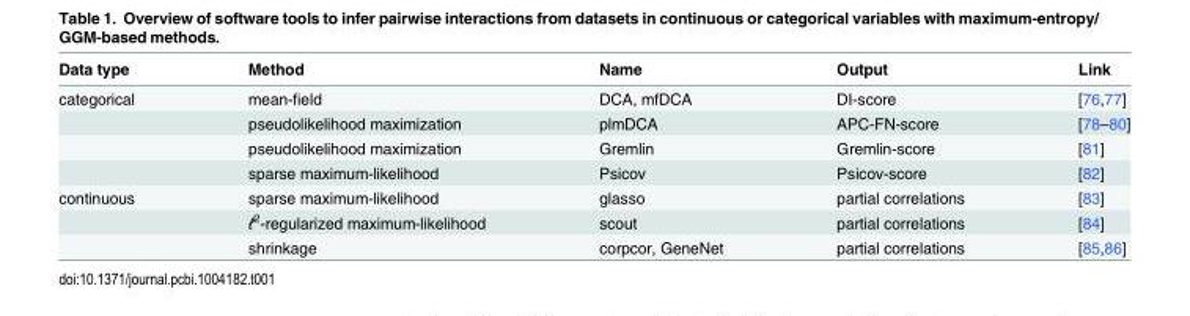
<table><thead><tr><td>Data type</td><td>Method</td><td>Name</td><td>Output</td><td>Link</td></tr></thead><tbody><tr><td rowspan="4">categorical</td><td>mean-field</td><td>DCA, mfDCA</td><td>DI-score</td><td>[76,77]</td></tr><tr><td>pseudolikelihood maximization</td><td>plmDCA</td><td>APC-FN-score</td><td>[78–80]</td></tr><tr><td>pseudolikelihood maximization</td><td>Gremlin</td><td>Gremlin-score</td><td>[81]</td></tr><tr><td>sparse maximum-likelihood</td><td>Psicov</td><td>Psicov-score</td><td>[82]</td></tr><tr><td rowspan="3">continuous</td><td>sparse maximum-likelihood</td><td>glasso</td><td>partial correlations</td><td>[83]</td></tr><tr><td>ℓ<sup>2</sup>-regularized maximum-likelihood</td><td>scout</td><td>partial correlations</td><td>[84]</td></tr><tr><td>shrinkage</td><td>corpcor, GeneNet</td><td>partial correlations</td><td>[85,86]</td></tr></tbody></table>